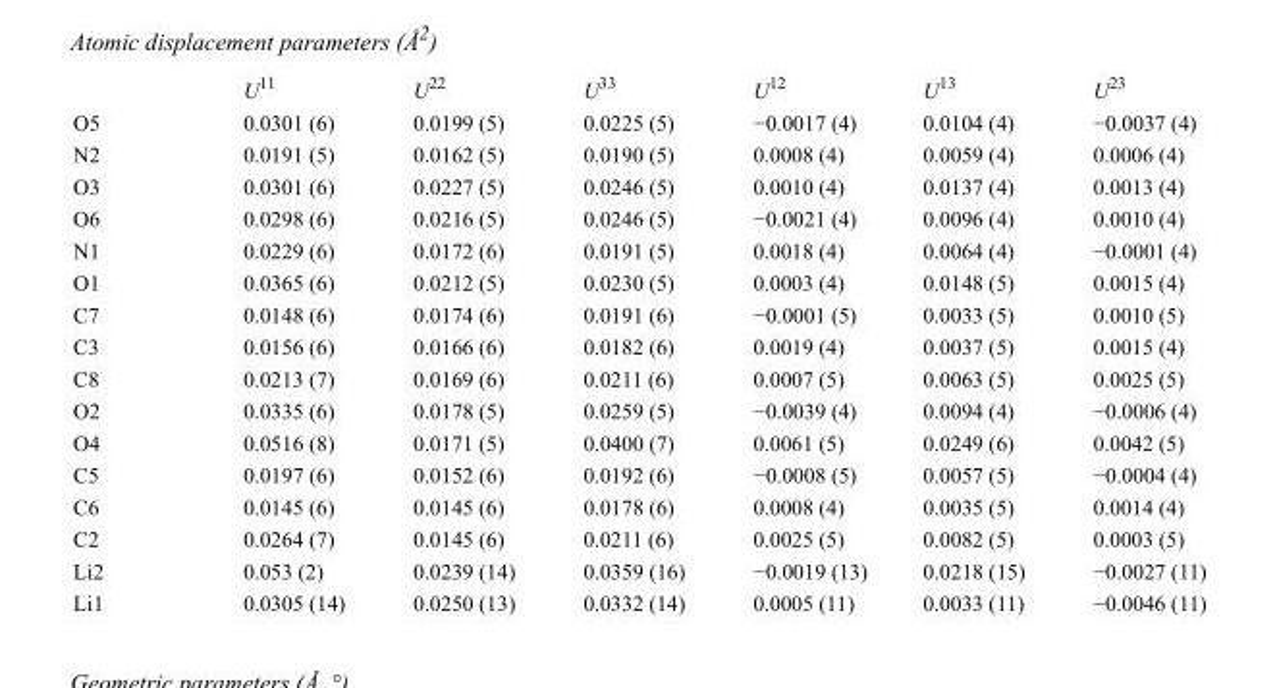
<table><thead><tr><td></td><td>U<sup>11</sup></td><td>U<sup>22</sup></td><td>U<sup>33</sup></td><td>U<sup>12</sup></td><td>U<sup>13</sup></td><td>U<sup>23</sup></td></tr></thead><tbody><tr><td>O5</td><td>0.0301 (6)</td><td>0.0199 (5)</td><td>0.0225 (5)</td><td>−0.0017 (4)</td><td>0.0104 (4)</td><td>−0.0037 (4)</td></tr><tr><td>N2</td><td>0.0191 (5)</td><td>0.0162 (5)</td><td>0.0190 (5)</td><td>0.0008 (4)</td><td>0.0059 (4)</td><td>0.0006 (4)</td></tr><tr><td>O3</td><td>0.0301 (6)</td><td>0.0227 (5)</td><td>0.0246 (5)</td><td>0.0010 (4)</td><td>0.0137 (4)</td><td>0.0013 (4)</td></tr><tr><td>O6</td><td>0.0298 (6)</td><td>0.0216 (5)</td><td>0.0246 (5)</td><td>−0.0021 (4)</td><td>0.0096 (4)</td><td>0.0010 (4)</td></tr><tr><td>N1</td><td>0.0229 (6)</td><td>0.0172 (6)</td><td>0.0191 (5)</td><td>0.0018 (4)</td><td>0.0064 (4)</td><td>−0.0001 (4)</td></tr><tr><td>O1</td><td>0.0365 (6)</td><td>0.0212 (5)</td><td>0.0230 (5)</td><td>0.0003 (4)</td><td>0.0148 (5)</td><td>0.0015 (4)</td></tr><tr><td>C7</td><td>0.0148 (6)</td><td>0.0174 (6)</td><td>0.0191 (6)</td><td>−0.0001 (5)</td><td>0.0033 (5)</td><td>0.0010 (5)</td></tr><tr><td>C3</td><td>0.0156 (6)</td><td>0.0166 (6)</td><td>0.0182 (6)</td><td>0.0019 (4)</td><td>0.0037 (5)</td><td>0.0015 (4)</td></tr><tr><td>C8</td><td>0.0213 (7)</td><td>0.0169 (6)</td><td>0.0211 (6)</td><td>0.0007 (5)</td><td>0.0063 (5)</td><td>0.0025 (5)</td></tr><tr><td>O2</td><td>0.0335 (6)</td><td>0.0178 (5)</td><td>0.0259 (5)</td><td>−0.0039 (4)</td><td>0.0094 (4)</td><td>−0.0006 (4)</td></tr><tr><td>O4</td><td>0.0516 (8)</td><td>0.0171 (5)</td><td>0.0400 (7)</td><td>0.0061 (5)</td><td>0.0249 (6)</td><td>0.0042 (5)</td></tr><tr><td>C5</td><td>0.0197 (6)</td><td>0.0152 (6)</td><td>0.0192 (6)</td><td>−0.0008 (5)</td><td>0.0057 (5)</td><td>−0.0004 (4)</td></tr><tr><td>C6</td><td>0.0145 (6)</td><td>0.0145 (6)</td><td>0.0178 (6)</td><td>0.0008 (4)</td><td>0.0035 (5)</td><td>0.0014 (4)</td></tr><tr><td>C2</td><td>0.0264 (7)</td><td>0.0145 (6)</td><td>0.0211 (6)</td><td>0.0025 (5)</td><td>0.0082 (5)</td><td>0.0003 (5)</td></tr><tr><td>Li2</td><td>0.053 (2)</td><td>0.0239 (14)</td><td>0.0359 (16)</td><td>−0.0019 (13)</td><td>0.0218 (15)</td><td>−0.0027 (11)</td></tr><tr><td>Li1</td><td>0.0305 (14)</td><td>0.0250 (13)</td><td>0.0332 (14)</td><td>0.0005 (11)</td><td>0.0033 (11)</td><td>−0.0046 (11)</td></tr></tbody></table>